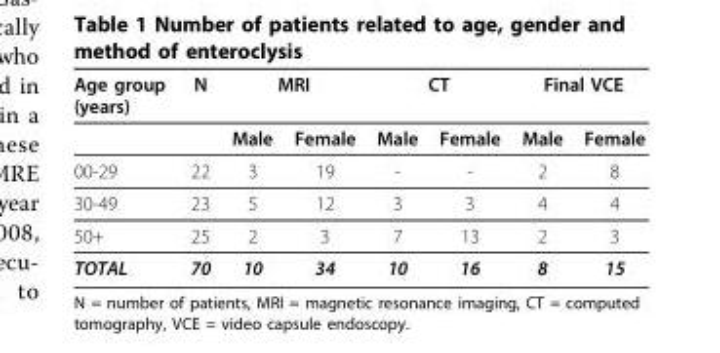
<table><thead><tr><td rowspan="2">Age group (years)</td><td rowspan="2">N</td><td colspan="2">MRI</td><td colspan="2">CT</td><td colspan="2">Final VCE</td></tr><tr><td>Male</td><td>Female</td><td>Male</td><td>Female</td><td>Male</td><td>Female</td></tr></thead><tbody><tr><td>00-29</td><td>22</td><td>3</td><td>19</td><td>-</td><td>-</td><td>2</td><td>8</td></tr><tr><td>30-49</td><td>23</td><td>5</td><td>12</td><td>3</td><td>3</td><td>4</td><td>4</td></tr><tr><td>50+</td><td>25</td><td>2</td><td>3</td><td>7</td><td>13</td><td>2</td><td>3</td></tr><tr><td>TOTAL</td><td>70</td><td>10</td><td>34</td><td>10</td><td>16</td><td>8</td><td>15</td></tr></tbody></table>